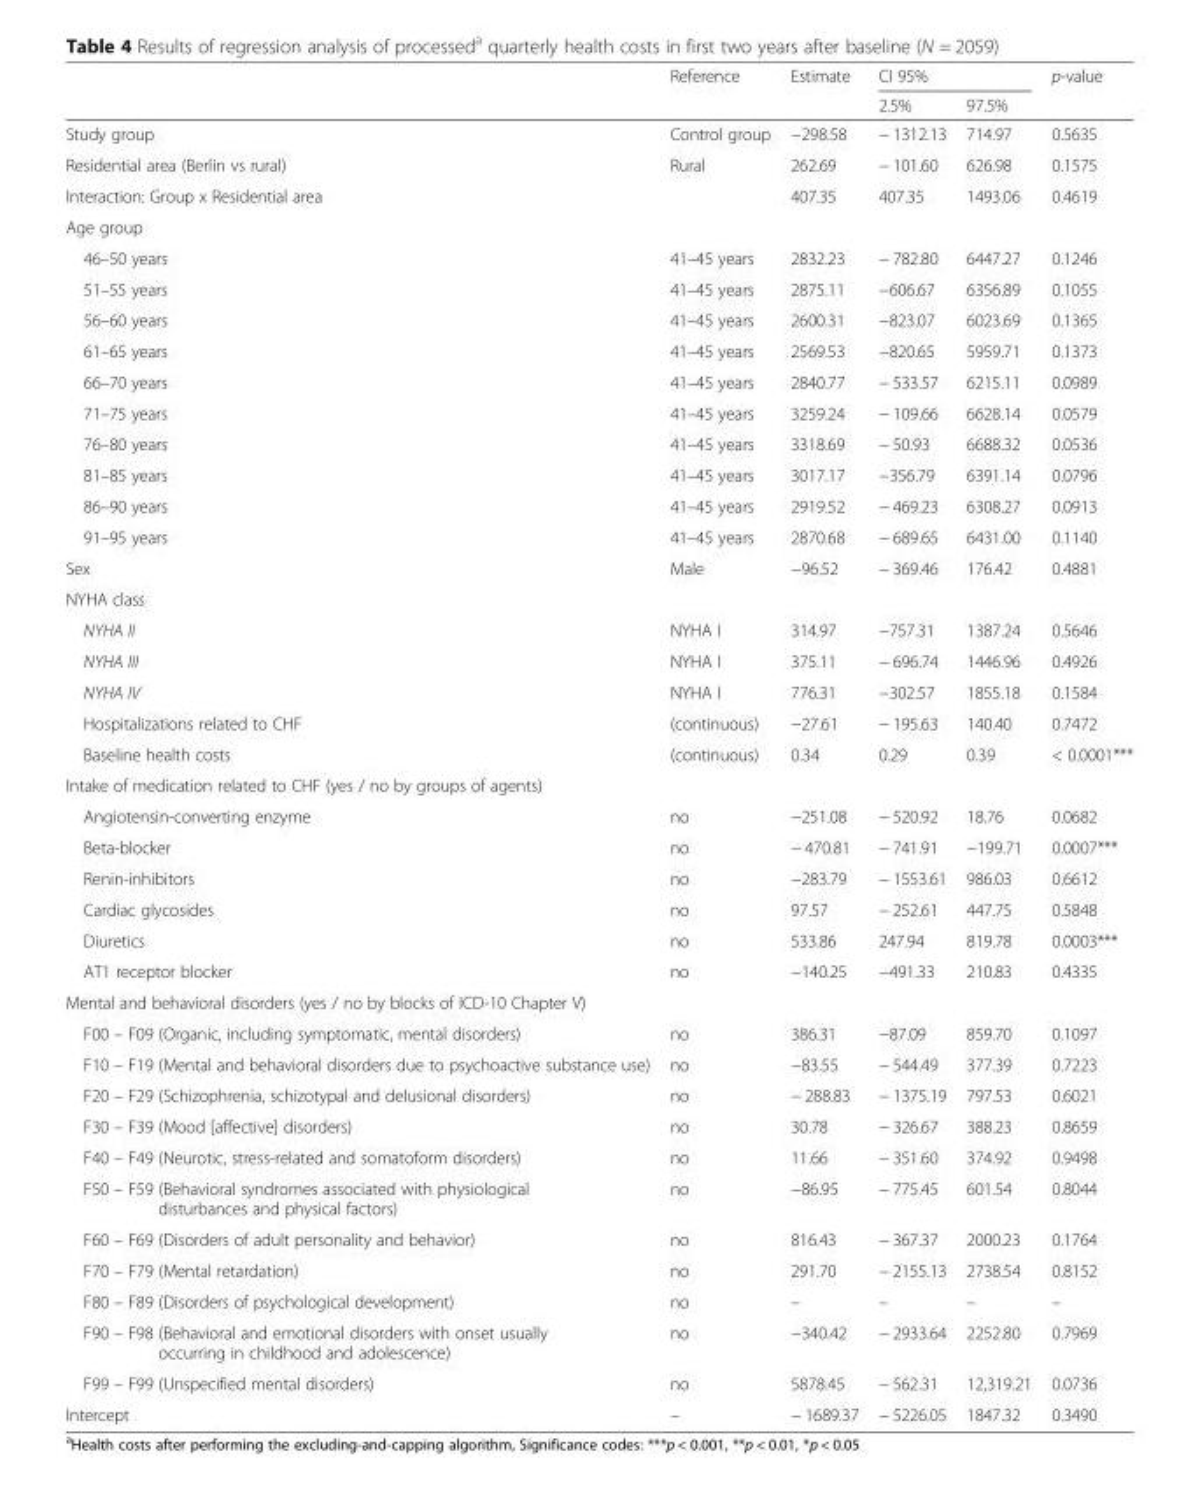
<table><thead><tr><td rowspan="2"></td><td rowspan="2">Reference</td><td rowspan="2">Estimate</td><td colspan="2">CI 95%</td><td rowspan="2">p-value</td></tr><tr><td>2.5%</td><td>97.5%</td></tr></thead><tbody><tr><td>Study group</td><td>Control group</td><td>−298.58</td><td>− 1312.13</td><td>714.97</td><td>0.5635</td></tr><tr><td>Residential area (Berlin vs rural)</td><td>Rural</td><td>262.69</td><td>− 101.60</td><td>626.98</td><td>0.1575</td></tr><tr><td colspan="2">Interaction: Group x Residential area</td><td>407.35</td><td>407.35</td><td>1493.06</td><td>0.4619</td></tr><tr><td colspan="6">Age group</td></tr><tr><td>46–50 years</td><td>41–45 years</td><td>2832.23</td><td>− 782.80</td><td>6447.27</td><td>0.1246</td></tr><tr><td>51–55 years</td><td>41–45 years</td><td>2875.11</td><td>−606.67</td><td>6356.89</td><td>0.1055</td></tr><tr><td>56–60 years</td><td>41–45 years</td><td>2600.31</td><td>−823.07</td><td>6023.69</td><td>0.1365</td></tr><tr><td>61–65 years</td><td>41–45 years</td><td>2569.53</td><td>−820.65</td><td>5959.71</td><td>0.1373</td></tr><tr><td>66–70 years</td><td>41–45 years</td><td>2840.77</td><td>− 533.57</td><td>6215.11</td><td>0.0989</td></tr><tr><td>71–75 years</td><td>41–45 years</td><td>3259.24</td><td>− 109.66</td><td>6628.14</td><td>0.0579</td></tr><tr><td>76–80 years</td><td>41–45 years</td><td>3318.69</td><td>− 50.93</td><td>6688.32</td><td>0.0536</td></tr><tr><td>81–85 years</td><td>41–45 years</td><td>3017.17</td><td>−356.79</td><td>6391.14</td><td>0.0796</td></tr><tr><td>86–90 years</td><td>41–45 years</td><td>2919.52</td><td>− 469.23</td><td>6308.27</td><td>0.0913</td></tr><tr><td>91–95 years</td><td>41–45 years</td><td>2870.68</td><td>− 689.65</td><td>6431.00</td><td>0.1140</td></tr><tr><td>Sex</td><td>Male</td><td>−96.52</td><td>− 369.46</td><td>176.42</td><td>0.4881</td></tr><tr><td colspan="6">NYHA class</td></tr><tr><td>NYHA II</td><td>NYHA I</td><td>314.97</td><td>−757.31</td><td>1387.24</td><td>0.5646</td></tr><tr><td>NYHA III</td><td>NYHA I</td><td>375.11</td><td>− 696.74</td><td>1446.96</td><td>0.4926</td></tr><tr><td>NYHA IV</td><td>NYHA I</td><td>776.31</td><td>−302.57</td><td>1855.18</td><td>0.1584</td></tr><tr><td>Hospitalizations related to CHF</td><td>(continuous)</td><td>−27.61</td><td>− 195.63</td><td>140.40</td><td>0.7472</td></tr><tr><td>Baseline health costs</td><td>(continuous)</td><td>0.34</td><td>0.29</td><td>0.39</td><td>&lt; 0.0001***</td></tr><tr><td colspan="6">Intake of medication related to CHF (yes / no by groups of agents)</td></tr><tr><td>Angiotensin-converting enzyme</td><td>no</td><td>−251.08</td><td>− 520.92</td><td>18.76</td><td>0.0682</td></tr><tr><td>Beta-blocker</td><td>no</td><td>− 470.81</td><td>− 741.91</td><td>−199.71</td><td>0.0007***</td></tr><tr><td>Renin-inhibitors</td><td>no</td><td>−283.79</td><td>− 1553.61</td><td>986.03</td><td>0.6612</td></tr><tr><td>Cardiac glycosides</td><td>no</td><td>97.57</td><td>− 252.61</td><td>447.75</td><td>0.5848</td></tr><tr><td>Diuretics</td><td>no</td><td>533.86</td><td>247.94</td><td>819.78</td><td>0.0003***</td></tr><tr><td>AT1 receptor blocker</td><td>no</td><td>−140.25</td><td>−491.33</td><td>210.83</td><td>0.4335</td></tr><tr><td colspan="6">Mental and behavioral disorders (yes / no by blocks of ICD-10 Chapter V)</td></tr><tr><td>F00 – F09 (Organic, including symptomatic, mental disorders)</td><td>no</td><td>386.31</td><td>−87.09</td><td>859.70</td><td>0.1097</td></tr><tr><td>F10 – F19 (Mental and behavioral disorders due to psychoactive substance use)</td><td>no</td><td>−83.55</td><td>− 544.49</td><td>377.39</td><td>0.7223</td></tr><tr><td>F20 – F29 (Schizophrenia, schizotypal and delusional disorders)</td><td>no</td><td>− 288.83</td><td>− 1375.19</td><td>797.53</td><td>0.6021</td></tr><tr><td>F30 – F39 (Mood [affective] disorders)</td><td>no</td><td>30.78</td><td>− 326.67</td><td>388.23</td><td>0.8659</td></tr><tr><td>F40 – F49 (Neurotic, stress-related and somatoform disorders)</td><td>no</td><td>11.66</td><td>− 351.60</td><td>374.92</td><td>0.9498</td></tr><tr><td>F50 – F59 (Behavioral syndromes associated with physiological disturbances and physical factors)</td><td>no</td><td>−86.95</td><td>− 775.45</td><td>601.54</td><td>0.8044</td></tr><tr><td>F60 – F69 (Disorders of adult personality and behavior)</td><td>no</td><td>816.43</td><td>− 367.37</td><td>2000.23</td><td>0.1764</td></tr><tr><td>F70 – F79 (Mental retardation)</td><td>no</td><td>291.70</td><td>− 2155.13</td><td>2738.54</td><td>0.8152</td></tr><tr><td>F80 – F89 (Disorders of psychological development)</td><td>no</td><td>–</td><td>–</td><td>–</td><td>–</td></tr><tr><td>F90 – F98 (Behavioral and emotional disorders with onset usually occurring in childhood and adolescence)</td><td>no</td><td>−340.42</td><td>− 2933.64</td><td>2252.80</td><td>0.7969</td></tr><tr><td>F99 – F99 (Unspecified mental disorders)</td><td>no</td><td>5878.45</td><td>− 562.31</td><td>12,319.21</td><td>0.0736</td></tr><tr><td>Intercept</td><td>–</td><td>− 1689.37</td><td>− 5226.05</td><td>1847.32</td><td>0.3490</td></tr></tbody></table>